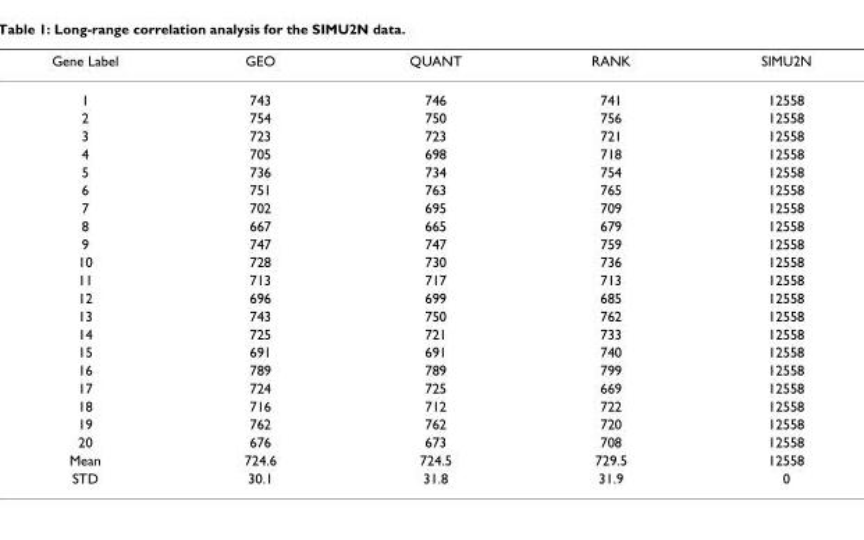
<table><thead><tr><td>Gene Label</td><td>GEO</td><td>QUANT</td><td>RANK</td><td>SIMU2N</td></tr></thead><tbody><tr><td>1</td><td>743</td><td>746</td><td>741</td><td>12558</td></tr><tr><td>2</td><td>754</td><td>750</td><td>756</td><td>12558</td></tr><tr><td>3</td><td>723</td><td>723</td><td>721</td><td>12558</td></tr><tr><td>4</td><td>705</td><td>698</td><td>718</td><td>12558</td></tr><tr><td>5</td><td>736</td><td>734</td><td>754</td><td>12558</td></tr><tr><td>6</td><td>751</td><td>763</td><td>765</td><td>12558</td></tr><tr><td>7</td><td>702</td><td>695</td><td>709</td><td>12558</td></tr><tr><td>8</td><td>667</td><td>665</td><td>679</td><td>12558</td></tr><tr><td>9</td><td>747</td><td>747</td><td>759</td><td>12558</td></tr><tr><td>10</td><td>728</td><td>730</td><td>736</td><td>12558</td></tr><tr><td>11</td><td>713</td><td>717</td><td>713</td><td>12558</td></tr><tr><td>12</td><td>696</td><td>699</td><td>685</td><td>12558</td></tr><tr><td>13</td><td>743</td><td>750</td><td>762</td><td>12558</td></tr><tr><td>14</td><td>725</td><td>721</td><td>733</td><td>12558</td></tr><tr><td>15</td><td>691</td><td>691</td><td>740</td><td>12558</td></tr><tr><td>16</td><td>789</td><td>789</td><td>799</td><td>12558</td></tr><tr><td>17</td><td>724</td><td>725</td><td>669</td><td>12558</td></tr><tr><td>18</td><td>716</td><td>712</td><td>722</td><td>12558</td></tr><tr><td>19</td><td>762</td><td>762</td><td>720</td><td>12558</td></tr><tr><td>20</td><td>676</td><td>673</td><td>708</td><td>12558</td></tr><tr><td>Mean</td><td>724.6</td><td>724.5</td><td>729.5</td><td>12558</td></tr><tr><td>STD</td><td>30.1</td><td>31.8</td><td>31.9</td><td>0</td></tr></tbody></table>